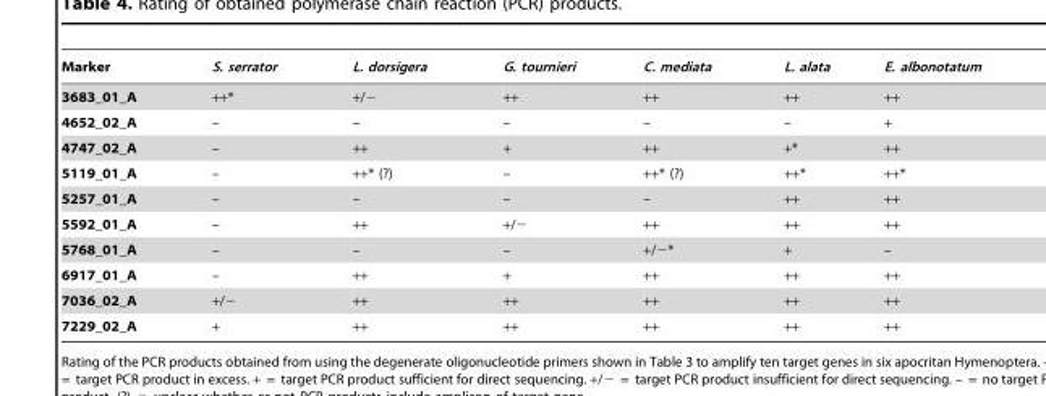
<table><thead><tr><td>Marker</td><td>S. serrator</td><td>L. dorsigera</td><td>G. tournieri</td><td>C. mediata</td><td>L. alata</td><td>E. albonotatum</td></tr></thead><tbody><tr><td>3683_01_A</td><td>++*</td><td>+/−</td><td>++</td><td>++</td><td>++</td><td>++</td></tr><tr><td>4652_02_A</td><td>–</td><td>–</td><td>–</td><td>–</td><td>–</td><td>+</td></tr><tr><td>4747_02_A</td><td>–</td><td>++</td><td>+</td><td>++</td><td>+*</td><td>++</td></tr><tr><td>5119_01_A</td><td>–</td><td>++* (?)</td><td>–</td><td>++* (?)</td><td>++*</td><td>++*</td></tr><tr><td>5257_01_A</td><td>–</td><td>–</td><td>–</td><td>–</td><td>++</td><td>++</td></tr><tr><td>5592_01_A</td><td>–</td><td>++</td><td>+/−</td><td>++</td><td>++</td><td>++</td></tr><tr><td>5768_01_A</td><td>–</td><td>–</td><td>–</td><td>+/−*</td><td>+</td><td>–</td></tr><tr><td>6917_01_A</td><td>–</td><td>++</td><td>+</td><td>++</td><td>++</td><td>++</td></tr><tr><td>7036_02_A</td><td>+/−</td><td>++</td><td>++</td><td>++</td><td>++</td><td>++</td></tr><tr><td>7229_02_A</td><td>+</td><td>++</td><td>++</td><td>++</td><td>++</td><td>++</td></tr></tbody></table>